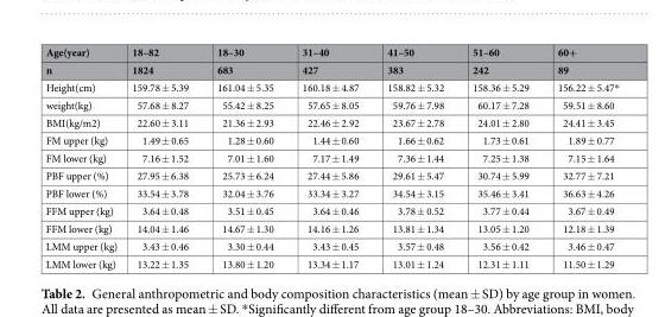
<table><thead><tr><td rowspan="2">Age(year) n</td><td rowspan="2">18–82 1824</td><td rowspan="2">18–30 683</td><td rowspan="2">31–40 427</td><td rowspan="2">41–50 383</td><td rowspan="2">51–60 242</td><td rowspan="2">60+ 89</td></tr><tr></tr></thead><tbody><tr><td>Height(cm)</td><td>159.78 ± 5.39</td><td>161.04 ± 5.35</td><td>160.18 ± 4.87</td><td>158.82 ± 5.32</td><td>158.36 ± 5.29</td><td>156.22 ± 5.47*</td></tr><tr><td>weight(kg)</td><td>57.68 ± 8.27</td><td>55.42 ± 8.25</td><td>57.65 ± 8.05</td><td>59.76 ± 7.98</td><td>60.17 ± 7.28</td><td>59.51 ± 8.60</td></tr><tr><td>BMI(kg/m2)</td><td>22.60 ± 3.11</td><td>21.36 ± 2.93</td><td>22.46 ± 2.92</td><td>23.67 ± 2.78</td><td>24.01 ± 2.80</td><td>24.41 ± 3.45</td></tr><tr><td>FM upper (kg)</td><td>1.49 ± 0.65</td><td>1.28 ± 0.60</td><td>1.44 ± 0.60</td><td>1.66 ± 0.62</td><td>1.73 ± 0.61</td><td>1.89 ± 0.77</td></tr><tr><td>FM lower (kg)</td><td>7.16 ± 1.52</td><td>7.01 ± 1.60</td><td>7.17 ± 1.49</td><td>7.36 ± 1.44</td><td>7.25 ± 1.38</td><td>7.15 ± 1.64</td></tr><tr><td>PBF upper (%)</td><td>27.95 ± 6.38</td><td>25.73 ± 6.24</td><td>27.44 ± 5.86</td><td>29.61 ± 5.47</td><td>30.74 ± 5.99</td><td>32.77 ± 7.21</td></tr><tr><td>PBF lower (%)</td><td>33.54 ± 3.78</td><td>32.04 ± 3.76</td><td>33.34 ± 3.27</td><td>34.54 ± 3.15</td><td>35.46 ± 3.41</td><td>36.63 ± 4.26</td></tr><tr><td>FFM upper (kg)</td><td>3.64 ± 0.48</td><td>3.51 ± 0.45</td><td>3.64 ± 0.46</td><td>3.78 ± 0.52</td><td>3.77 ± 0.44</td><td>3.67 ± 0.49</td></tr><tr><td>FFM lower (kg)</td><td>14.04 ± 1.46</td><td>14.67 ± 1.30</td><td>14.16 ± 1.26</td><td>13.81 ± 1.34</td><td>13.05 ± 1.20</td><td>12.18 ± 1.39</td></tr><tr><td>LMM upper (kg)</td><td>3.43 ± 0.46</td><td>3.30 ± 0.44</td><td>3.43 ± 0.45</td><td>3.57 ± 0.48</td><td>3.56 ± 0.42</td><td>3.46 ± 0.47</td></tr><tr><td>LMM lower (kg)</td><td>13.22 ± 1.35</td><td>13.80 ± 1.20</td><td>13.34 ± 1.17</td><td>13.01 ± 1.24</td><td>12.31 ± 1.11</td><td>11.50 ± 1.29</td></tr></tbody></table>